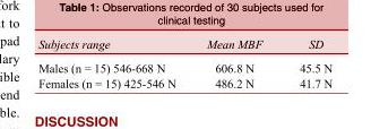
<table><tbody><tr><td>Subjects range</td><td>Mean MBF</td><td>SD</td></tr><tr><td>Males (n = 15) 546-668 N</td><td>606.8 N</td><td>45.5 N</td></tr><tr><td>Females (n = 15) 425-546 N</td><td>486.2 N</td><td>41.7 N</td></tr></tbody></table>